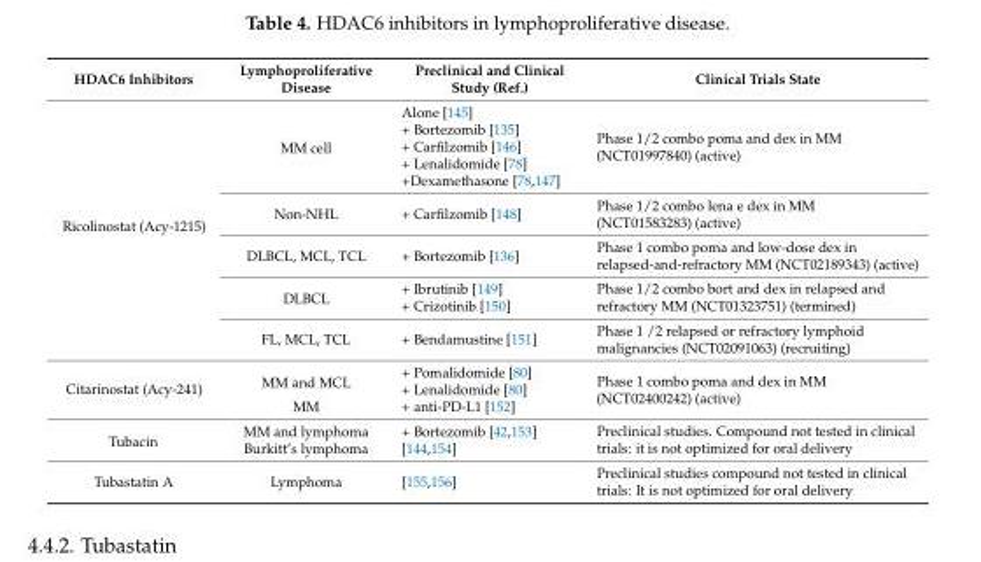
<table><thead><tr><td>HDAC6 Inhibitors</td><td>Lymphoproliferative Disease</td><td>Preclinical and Clinical Study (Ref.)</td><td>Clinical Trials State</td></tr></thead><tbody><tr><td rowspan="10">Ricolinostat (Acy-1215)</td><td rowspan="5">MM cell</td><td>Alone [145]</td><td rowspan="5">Phase 1/2 combo poma and dex in MM (NCT01997840) (active)</td></tr><tr><td>+ Bortezomib [135]</td></tr><tr><td>+ Carfilzomib [146]</td></tr><tr><td>+ Lenalidomide [78]</td></tr><tr><td>+Dexamethasone [78,147]</td></tr><tr><td>Non-NHL</td><td>+ Carfilzomib [148]</td><td>Phase 1/2 combo lena e dex in MM (NCT01583283) (active)</td></tr><tr><td>DLBCL, MCL, TCL</td><td>+ Bortezomib [136]</td><td>Phase 1 combo poma and low-dose dex in relapsed-and-refractory MM (NCT02189343) (active)</td></tr><tr><td rowspan="2">DLBCL</td><td>+ Ibrutinib [149]</td><td rowspan="2">Phase 1/2 combo bort and dex in relapsed and refractory MM (NCT01323751) (termined)</td></tr><tr><td>+ Crizotinib [150]</td></tr><tr><td>FL, MCL, TCL</td><td>+ Bendamustine [151]</td><td>Phase 1 /2 relapsed or refractory lymphoid malignancies (NCT02091063) (recruiting)</td></tr><tr><td rowspan="3">Citarinostat (Acy-241)</td><td rowspan="2">MM and MCL</td><td>+ Pomalidomide [80]</td><td rowspan="3">Phase 1 combo poma and dex in MM (NCT02400242) (active)</td></tr><tr><td>+ Lenalidomide [80]</td></tr><tr><td>MM</td><td>+ anti-PD-L1 [152]</td></tr><tr><td rowspan="2">Tubacin</td><td>MM and lymphoma</td><td>+ Bortezomib [42,153]</td><td rowspan="2">Preclinical studies. Compound not tested in clinical trials: it is not optimized for oral delivery</td></tr><tr><td>Burkitt’s lymphoma</td><td>[144,154]</td></tr><tr><td>Tubastatin A</td><td>Lymphoma</td><td>[155,156]</td><td>Preclinical studies compound not tested in clinical trials: It is not optimized for oral delivery</td></tr></tbody></table>